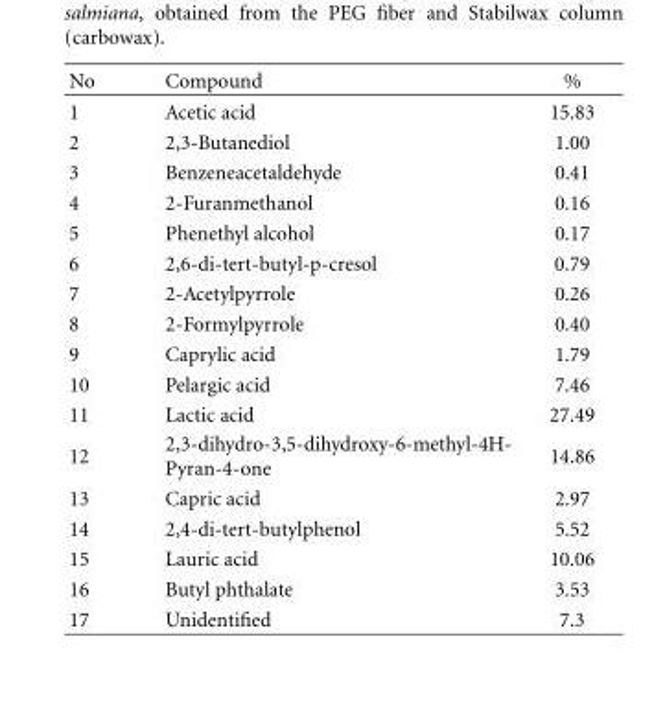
<table><thead><tr><td>No</td><td>Compound</td><td>%</td></tr></thead><tbody><tr><td>1</td><td>Acetic acid</td><td>15.83</td></tr><tr><td>2</td><td>2,3-Butanediol</td><td>1.00</td></tr><tr><td>3</td><td>Benzeneacetaldehyde</td><td>0.41</td></tr><tr><td>4</td><td>2-Furanmethanol</td><td>0.16</td></tr><tr><td>5</td><td>Phenethyl alcohol</td><td>0.17</td></tr><tr><td>6</td><td>2,6-di-tert-butyl-p-cresol</td><td>0.79</td></tr><tr><td>7</td><td>2-Acetylpyrrole</td><td>0.26</td></tr><tr><td>8</td><td>2-Formylpyrrole</td><td>0.40</td></tr><tr><td>9</td><td>Caprylic acid</td><td>1.79</td></tr><tr><td>10</td><td>Pelargic acid</td><td>7.46</td></tr><tr><td>11</td><td>Lactic acid</td><td>27.49</td></tr><tr><td>12</td><td>2,3-dihydro-3,5-dihydroxy-6-methyl-4H- Pyran-4-one</td><td>14.86</td></tr><tr><td>13</td><td>Capric acid</td><td>2.97</td></tr><tr><td>14</td><td>2,4-di-tert-butylphenol</td><td>5.52</td></tr><tr><td>15</td><td>Lauric acid</td><td>10.06</td></tr><tr><td>16</td><td>Butyl phthalate</td><td>3.53</td></tr><tr><td>17</td><td>Unidentified</td><td>7.3</td></tr></tbody></table>